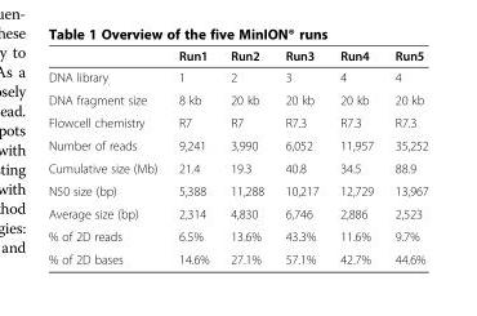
<table><thead><tr><td></td><td>Run1</td><td>Run2</td><td>Run3</td><td>Run4</td><td>Run5</td></tr></thead><tbody><tr><td>DNA library</td><td>1</td><td>2</td><td>3</td><td>4</td><td>4</td></tr><tr><td>DNA fragment size</td><td>8 kb</td><td>20 kb</td><td>20 kb</td><td>20 kb</td><td>20 kb</td></tr><tr><td>Flowcell chemistry</td><td>R7</td><td>R7</td><td>R7.3</td><td>R7.3</td><td>R7.3</td></tr><tr><td>Number of reads</td><td>9,241</td><td>3,990</td><td>6,052</td><td>11,957</td><td>35,252</td></tr><tr><td>Cumulative size (Mb)</td><td>21.4</td><td>19.3</td><td>40.8</td><td>34.5</td><td>88.9</td></tr><tr><td>N50 size (bp)</td><td>5,388</td><td>11,288</td><td>10,217</td><td>12,729</td><td>13,967</td></tr><tr><td>Average size (bp)</td><td>2,314</td><td>4,830</td><td>6,746</td><td>2,886</td><td>2,523</td></tr><tr><td>% of 2D reads</td><td>6.5%</td><td>13.6%</td><td>43.3%</td><td>11.6%</td><td>9.7%</td></tr><tr><td>% of 2D bases</td><td>14.6%</td><td>27.1%</td><td>57.1%</td><td>42.7%</td><td>44.6%</td></tr></tbody></table>